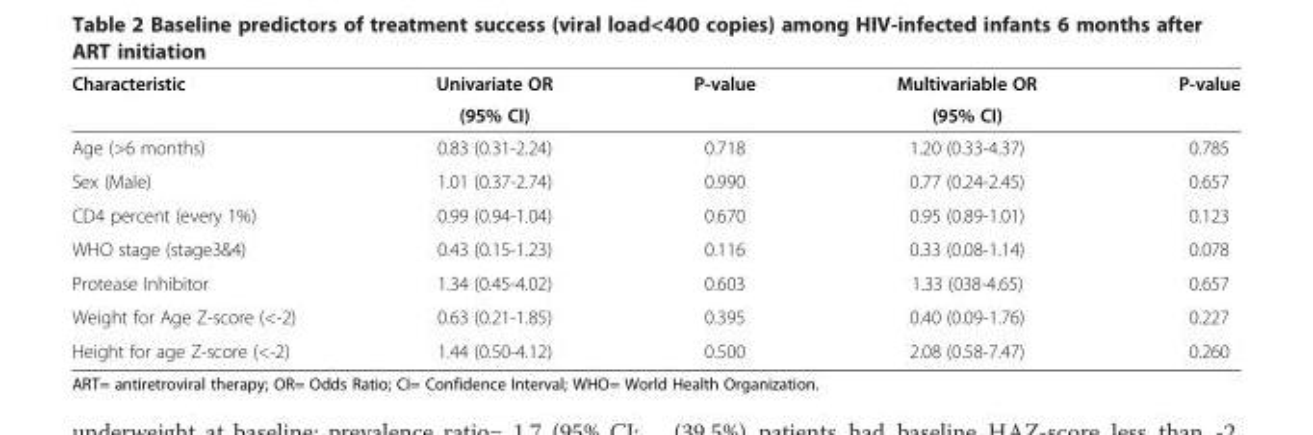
<table><thead><tr><td rowspan="2">Characteristic</td><td rowspan="2">Univariate OR (95% CI)</td><td rowspan="2">P-value</td><td rowspan="2">Multivariable OR (95% CI)</td><td rowspan="2">P-value</td></tr><tr></tr></thead><tbody><tr><td>Age (&gt;6 months)</td><td>0.83 (0.31-2.24)</td><td>0.718</td><td>1.20 (0.33-4.37)</td><td>0.785</td></tr><tr><td>Sex (Male)</td><td>1.01 (0.37-2.74)</td><td>0.990</td><td>0.77 (0.24-2.45)</td><td>0.657</td></tr><tr><td>CD4 percent (every 1%)</td><td>0.99 (0.94-1.04)</td><td>0.670</td><td>0.95 (0.89-1.01)</td><td>0.123</td></tr><tr><td>WHO stage (stage3&amp;4)</td><td>0.43 (0.15-1.23)</td><td>0.116</td><td>0.33 (0.08-1.14)</td><td>0.078</td></tr><tr><td>Protease Inhibitor</td><td>1.34 (0.45-4.02)</td><td>0.603</td><td>1.33 (038-4.65)</td><td>0.657</td></tr><tr><td>Weight for Age Z-score (&lt;-2)</td><td>0.63 (0.21-1.85)</td><td>0.395</td><td>0.40 (0.09-1.76)</td><td>0.227</td></tr><tr><td>Height for age Z-score (&lt;-2)</td><td>1.44 (0.50-4.12)</td><td>0.500</td><td>2.08 (0.58-7.47)</td><td>0.260</td></tr></tbody></table>